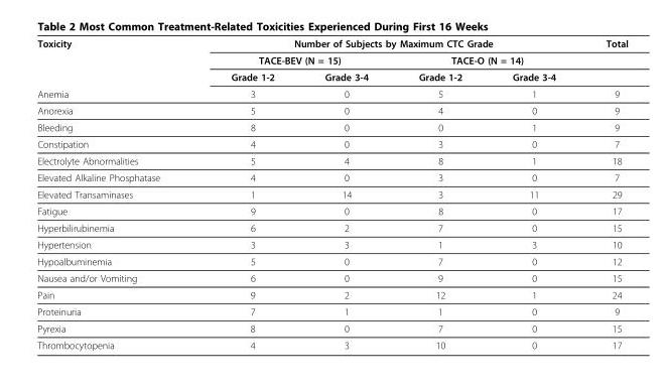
<table><thead><tr><td rowspan="4">Toxicity Anemia</td><td colspan="4">Number of Subjects by Maximum CTC Grade</td><td rowspan="4">Total 9</td></tr><tr><td colspan="2">TACE-BEV (N = 15)</td><td colspan="2">TACE-O (N = 14)</td></tr><tr><td rowspan="2">Grade 1-2 3</td><td rowspan="2">Grade 3-4 0</td><td rowspan="2">Grade 1-2 5</td><td rowspan="2">Grade 3-4 1</td></tr><tr></tr></thead><tbody><tr><td>Anorexia</td><td>5</td><td>0</td><td>4</td><td>0</td><td>9</td></tr><tr><td>Bleeding</td><td>8</td><td>0</td><td>0</td><td>1</td><td>9</td></tr><tr><td>Constipation</td><td>4</td><td>0</td><td>3</td><td>0</td><td>7</td></tr><tr><td>Electrolyte Abnormalities</td><td>5</td><td>4</td><td>8</td><td>1</td><td>18</td></tr><tr><td>Elevated Alkaline Phosphatase</td><td>4</td><td>0</td><td>3</td><td>0</td><td>7</td></tr><tr><td>Elevated Transaminases</td><td>1</td><td>14</td><td>3</td><td>11</td><td>29</td></tr><tr><td>Fatigue</td><td>9</td><td>0</td><td>8</td><td>0</td><td>17</td></tr><tr><td>Hyperbilirubinemia</td><td>6</td><td>2</td><td>7</td><td>0</td><td>15</td></tr><tr><td>Hypertension</td><td>3</td><td>3</td><td>1</td><td>3</td><td>10</td></tr><tr><td>Hypoalbuminemia</td><td>5</td><td>0</td><td>7</td><td>0</td><td>12</td></tr><tr><td>Nausea and/or Vomiting</td><td>6</td><td>0</td><td>9</td><td>0</td><td>15</td></tr><tr><td>Pain</td><td>9</td><td>2</td><td>12</td><td>1</td><td>24</td></tr><tr><td>Proteinuria</td><td>7</td><td>1</td><td>1</td><td>0</td><td>9</td></tr><tr><td>Pyrexia</td><td>8</td><td>0</td><td>7</td><td>0</td><td>15</td></tr><tr><td>Thrombocytopenia</td><td>4</td><td>3</td><td>10</td><td>0</td><td>17</td></tr></tbody></table>